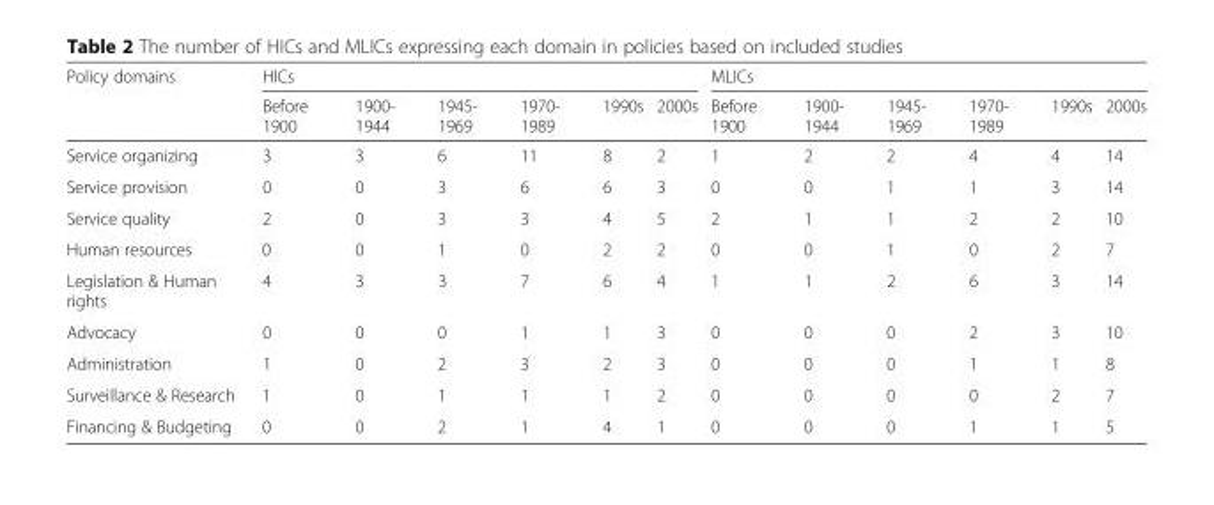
<table><thead><tr><td rowspan="2">Policy domains</td><td colspan="6">HICs</td><td colspan="6">MLICs</td></tr><tr><td>Before 1900</td><td>1900- 1944</td><td>1945- 1969</td><td>1970- 1989</td><td>1990s</td><td>2000s</td><td>Before 1900</td><td>1900- 1944</td><td>1945- 1969</td><td>1970- 1989</td><td>1990s</td><td>2000s</td></tr></thead><tbody><tr><td>Service organizing</td><td>3</td><td>3</td><td>6</td><td>11</td><td>8</td><td>2</td><td>1</td><td>2</td><td>2</td><td>4</td><td>4</td><td>14</td></tr><tr><td>Service provision</td><td>0</td><td>0</td><td>3</td><td>6</td><td>6</td><td>3</td><td>0</td><td>0</td><td>1</td><td>1</td><td>3</td><td>14</td></tr><tr><td>Service quality</td><td>2</td><td>0</td><td>3</td><td>3</td><td>4</td><td>5</td><td>2</td><td>1</td><td>1</td><td>2</td><td>2</td><td>10</td></tr><tr><td>Human resources</td><td>0</td><td>0</td><td>1</td><td>0</td><td>2</td><td>2</td><td>0</td><td>0</td><td>1</td><td>0</td><td>2</td><td>7</td></tr><tr><td>Legislation &amp; Human rights</td><td>4</td><td>3</td><td>3</td><td>7</td><td>6</td><td>4</td><td>1</td><td>1</td><td>2</td><td>6</td><td>3</td><td>14</td></tr><tr><td>Advocacy</td><td>0</td><td>0</td><td>0</td><td>1</td><td>1</td><td>3</td><td>0</td><td>0</td><td>0</td><td>2</td><td>3</td><td>10</td></tr><tr><td>Administration</td><td>1</td><td>0</td><td>2</td><td>3</td><td>2</td><td>3</td><td>0</td><td>0</td><td>0</td><td>1</td><td>1</td><td>8</td></tr><tr><td>Surveillance &amp; Research</td><td>1</td><td>0</td><td>1</td><td>1</td><td>1</td><td>2</td><td>0</td><td>0</td><td>0</td><td>0</td><td>2</td><td>7</td></tr><tr><td>Financing &amp; Budgeting</td><td>0</td><td>0</td><td>2</td><td>1</td><td>4</td><td>1</td><td>0</td><td>0</td><td>0</td><td>1</td><td>1</td><td>5</td></tr></tbody></table>